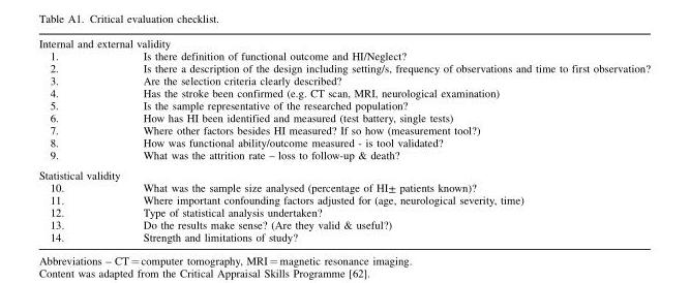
<table><tbody><tr><td colspan="2">Internal and external validity</td></tr><tr><td>1.</td><td>Is there definition of functional outcome and HI/Neglect?</td></tr><tr><td>2.</td><td>Is there a description of the design including setting/s, frequency of observations and time to first observation?</td></tr><tr><td>3.</td><td>Are the selection criteria clearly described?</td></tr><tr><td>4.</td><td>Has the stroke been confirmed (e.g. CT scan, MRI, neurological examination)</td></tr><tr><td>5.</td><td>Is the sample representative of the researched population?</td></tr><tr><td>6.</td><td>How has HI been identified and measured (test battery, single tests)</td></tr><tr><td>7.</td><td>Where other factors besides HI measured? If so how (measurement tool?)</td></tr><tr><td>8.</td><td>How was functional ability/outcome measured - is tool validated?</td></tr><tr><td>9.</td><td>What was the attrition rate – loss to follow-up &amp; death?</td></tr><tr><td colspan="2">Statistical validity</td></tr><tr><td>10.</td><td>What was the sample size analysed (percentage of HI± patients known)?</td></tr><tr><td>11.</td><td>Where important confounding factors adjusted for (age, neurological severity, time)</td></tr><tr><td>12.</td><td>Type of statistical analysis undertaken?</td></tr><tr><td>13.</td><td>Do the results make sense? (Are they valid &amp; useful?)</td></tr><tr><td>14.</td><td>Strength and limitations of study?</td></tr></tbody></table>